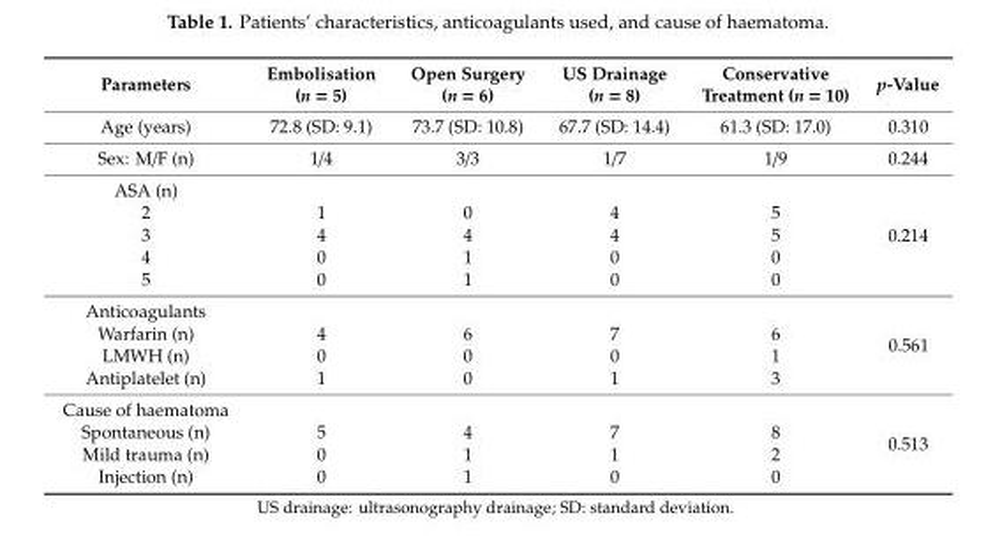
<table><thead><tr><td>Parameters</td><td>Embolisation (n = 5)</td><td>Open Surgery (n = 6)</td><td>US Drainage (n = 8)</td><td>Conservative Treatment (n = 10)</td><td>p-Value</td></tr></thead><tbody><tr><td>Age (years)</td><td>72.8 (SD: 9.1)</td><td>73.7 (SD: 10.8)</td><td>67.7 (SD: 14.4)</td><td>61.3 (SD: 17.0)</td><td>0.310</td></tr><tr><td>Sex: M/F (n)</td><td>1/4</td><td>3/3</td><td>1/7</td><td>1/9</td><td>0.244</td></tr><tr><td colspan="5">ASA (n)</td><td rowspan="5">0.214</td></tr><tr><td>2</td><td>1</td><td>0</td><td>4</td><td>5</td></tr><tr><td>3</td><td>4</td><td>4</td><td>4</td><td>5</td></tr><tr><td>4</td><td>0</td><td>1</td><td>0</td><td>0</td></tr><tr><td>5</td><td>0</td><td>1</td><td>0</td><td>0</td></tr><tr><td colspan="5">Anticoagulants</td><td rowspan="4">0.561</td></tr><tr><td>Warfarin (n)</td><td>4</td><td>6</td><td>7</td><td>6</td></tr><tr><td>LMWH (n)</td><td>0</td><td>0</td><td>0</td><td>1</td></tr><tr><td>Antiplatelet (n)</td><td>1</td><td>0</td><td>1</td><td>3</td></tr><tr><td colspan="5">Cause of haematoma</td><td rowspan="4">0.513</td></tr><tr><td>Spontaneous (n)</td><td>5</td><td>4</td><td>7</td><td>8</td></tr><tr><td>Mild trauma (n)</td><td>0</td><td>1</td><td>1</td><td>2</td></tr><tr><td>Injection (n)</td><td>0</td><td>1</td><td>0</td><td>0</td></tr></tbody></table>